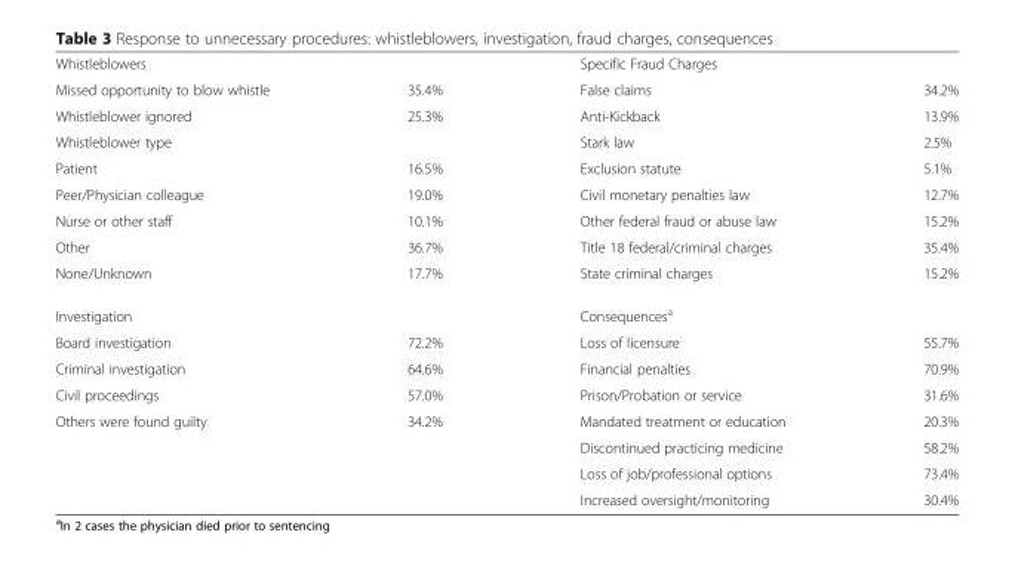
<table><tbody><tr><td colspan="2">Whistleblowers</td><td colspan="2">Specific Fraud Charges</td></tr><tr><td>Missed opportunity to blow whistle</td><td>35.4%</td><td>False claims</td><td>34.2%</td></tr><tr><td>Whistleblower ignored</td><td>25.3%</td><td>Anti-Kickback</td><td>13.9%</td></tr><tr><td>Whistleblower type</td><td></td><td>Stark law</td><td>2.5%</td></tr><tr><td>Patient</td><td>16.5%</td><td>Exclusion statute</td><td>5.1%</td></tr><tr><td>Peer/Physician colleague</td><td>19.0%</td><td>Civil monetary penalties law</td><td>12.7%</td></tr><tr><td>Nurse or other staff</td><td>10.1%</td><td>Other federal fraud or abuse law</td><td>15.2%</td></tr><tr><td>Other</td><td>36.7%</td><td>Title 18 federal/criminal charges</td><td>35.4%</td></tr><tr><td>None/Unknown</td><td>17.7%</td><td>State criminal charges</td><td>15.2%</td></tr><tr><td colspan="2">Investigation</td><td colspan="2">Consequences<sup>a</sup></td></tr><tr><td>Board investigation</td><td>72.2%</td><td>Loss of licensure</td><td>55.7%</td></tr><tr><td>Criminal investigation</td><td>64.6%</td><td>Financial penalties</td><td>70.9%</td></tr><tr><td>Civil proceedings</td><td>57.0%</td><td>Prison/Probation or service</td><td>31.6%</td></tr><tr><td rowspan="4">Others were found guilty</td><td>34.2%</td><td>Mandated treatment or education</td><td>20.3%</td></tr><tr><td></td><td>Discontinued practicing medicine</td><td>58.2%</td></tr><tr><td></td><td>Loss of job/professional options</td><td>73.4%</td></tr><tr><td></td><td>Increased oversight/monitoring</td><td>30.4%</td></tr></tbody></table>